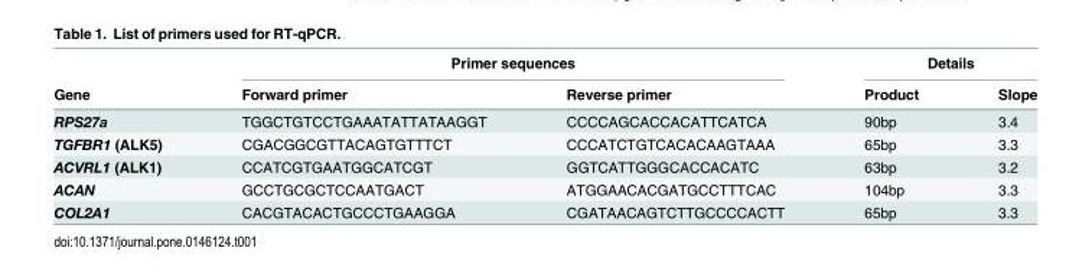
<table><thead><tr><td rowspan="2">Gene</td><td colspan="2">Primer sequences</td><td colspan="2">Details</td></tr><tr><td>Forward primer</td><td>Reverse primer</td><td>Product</td><td>Slope</td></tr></thead><tbody><tr><td>RPS27a</td><td>TGGCTGTCCTGAAATATTATAAGGT</td><td>CCCCAGCACCACATTCATCA</td><td>90bp</td><td>3.4</td></tr><tr><td>TGFBR1 (ALK5)</td><td>CGACGGCGTTACAGTGTTTCT</td><td>CCCATCTGTCACACAAGTAAA</td><td>65bp</td><td>3.3</td></tr><tr><td>ACVRL1 (ALK1)</td><td>CCATCGTGAATGGCATCGT</td><td>GGTCATTGGGCACCACATC</td><td>63bp</td><td>3.2</td></tr><tr><td>ACAN</td><td>GCCTGCGCTCCAATGACT</td><td>ATGGAACACGATGCCTTTCAC</td><td>104bp</td><td>3.3</td></tr><tr><td>COL2A1</td><td>CACGTACACTGCCCTGAAGGA</td><td>CGATAACAGTCTTGCCCCACTT</td><td>65bp</td><td>3.3</td></tr></tbody></table>